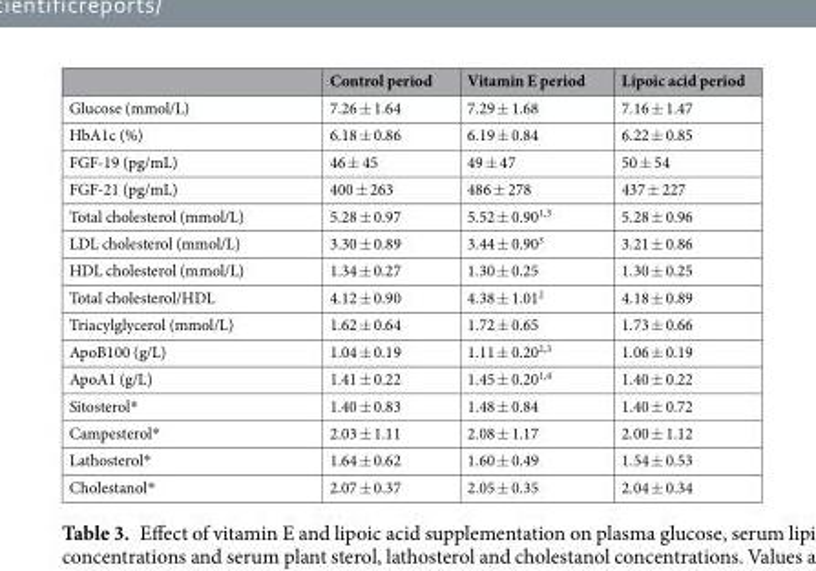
<table><thead><tr><td></td><td>Control period</td><td>Vitamin E period</td><td>Lipoic acid period</td></tr></thead><tbody><tr><td>Glucose (mmol/L)</td><td>7.26 ± 1.64</td><td>7.29 ± 1.68</td><td>7.16 ± 1.47</td></tr><tr><td>HbA1c (%)</td><td>6.18 ± 0.86</td><td>6.19 ± 0.84</td><td>6.22 ± 0.85</td></tr><tr><td>FGF-19 (pg/mL)</td><td>46 ± 45</td><td>49 ± 47</td><td>50 ± 54</td></tr><tr><td>FGF-21 (pg/mL)</td><td>400 ± 263</td><td>486 ± 278</td><td>437 ± 227</td></tr><tr><td>Total cholesterol (mmol/L)</td><td>5.28 ± 0.97</td><td>5.52 ± 0.90<sup>1,3</sup></td><td>5.28 ± 0.96</td></tr><tr><td>LDL cholesterol (mmol/L)</td><td>3.30 ± 0.89</td><td>3.44 ± 0.90<sup>3</sup></td><td>3.21 ± 0.86</td></tr><tr><td>HDL cholesterol (mmol/L)</td><td>1.34 ± 0.27</td><td>1.30 ± 0.25</td><td>1.30 ± 0.25</td></tr><tr><td>Total cholesterol/HDL</td><td>4.12 ± 0.90</td><td>4.38 ± 1.01<sup>2</sup></td><td>4.18 ± 0.89</td></tr><tr><td>Triacylglycerol (mmol/L)</td><td>1.62 ± 0.64</td><td>1.72 ± 0.65</td><td>1.73 ± 0.66</td></tr><tr><td>ApoB100 (g/L)</td><td>1.04 ± 0.19</td><td>1.11 ± 0.20<sup>2,3</sup></td><td>1.06 ± 0.19</td></tr><tr><td>ApoA1 (g/L)</td><td>1.41 ± 0.22</td><td>1.45 ± 0.20<sup>1,4</sup></td><td>1.40 ± 0.22</td></tr><tr><td>Sitosterol*</td><td>1.40 ± 0.83</td><td>1.48 ± 0.84</td><td>1.40 ± 0.72</td></tr><tr><td>Campesterol*</td><td>2.03 ± 1.11</td><td>2.08 ± 1.17</td><td>2.00 ± 1.12</td></tr><tr><td>Lathosterol*</td><td>1.64 ± 0.62</td><td>1.60 ± 0.49</td><td>1.54 ± 0.53</td></tr><tr><td>Cholestanol*</td><td>2.07 ± 0.37</td><td>2.05 ± 0.35</td><td>2.04 ± 0.34</td></tr></tbody></table>